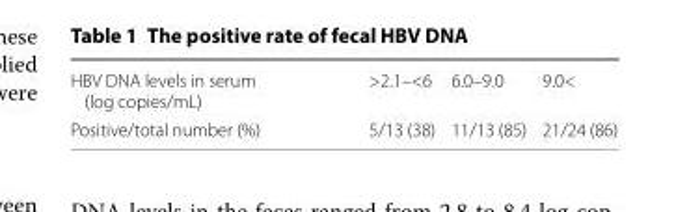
<table><tbody><tr><td>HBV DNA levels in serum (log copies/mL)</td><td>&gt;2.1–&lt;6</td><td>6.0–9.0</td><td>9.0&lt;</td></tr><tr><td>Positive/total number (%)</td><td>5/13 (38)</td><td>11/13 (85)</td><td>21/24 (86)</td></tr></tbody></table>